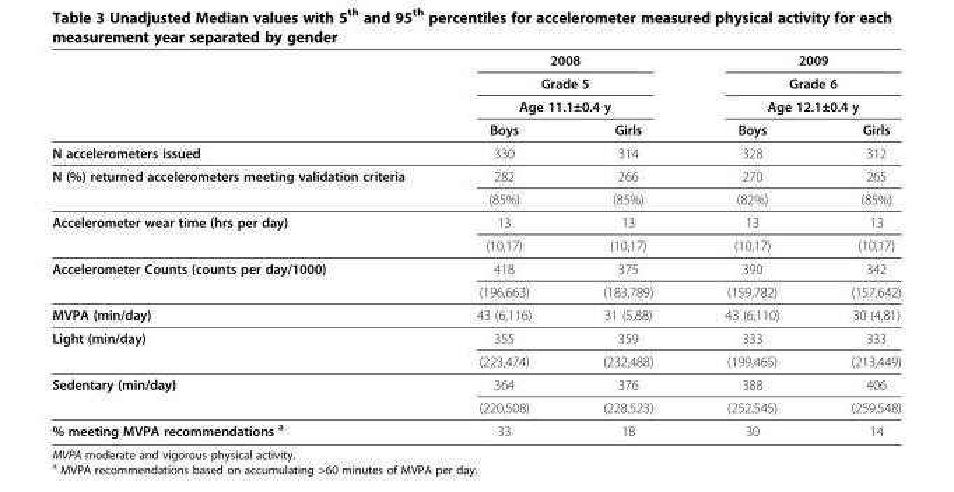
<table><thead><tr><td rowspan="4"></td><td rowspan="3" colspan="2">2008 Grade 5 Age 11.1±0.4 y</td><td rowspan="3" colspan="2">2009 Grade 6 Age 12.1±0.4 y</td></tr><tr></tr><tr></tr><tr><td>Boys</td><td>Girls</td><td>Boys</td><td>Girls</td></tr></thead><tbody><tr><td>N accelerometers issued</td><td>330</td><td>314</td><td>328</td><td>312</td></tr><tr><td rowspan="2">N (%) returned accelerometers meeting validation criteria</td><td>282</td><td>266</td><td>270</td><td>265</td></tr><tr><td>(85%)</td><td>(85%)</td><td>(82%)</td><td>(85%)</td></tr><tr><td rowspan="2">Accelerometer wear time (hrs per day)</td><td>13</td><td>13</td><td>13</td><td>13</td></tr><tr><td>(10,17)</td><td>(10,17)</td><td>(10,17)</td><td>(10,17)</td></tr><tr><td rowspan="2">Accelerometer Counts (counts per day/1000)</td><td>418</td><td>375</td><td>390</td><td>342</td></tr><tr><td>(196,663)</td><td>(183,789)</td><td>(159,782)</td><td>(157,642)</td></tr><tr><td>MVPA (min/day)</td><td>43 (6,116)</td><td>31 (5,88)</td><td>43 (6,110)</td><td>30 (4,81)</td></tr><tr><td rowspan="2">Light (min/day)</td><td>355</td><td>359</td><td>333</td><td>333</td></tr><tr><td>(223,474)</td><td>(232,488)</td><td>(199,465)</td><td>(213,449)</td></tr><tr><td rowspan="2">Sedentary (min/day)</td><td>364</td><td>376</td><td>388</td><td>406</td></tr><tr><td>(220,508)</td><td>(228,523)</td><td>(252,545)</td><td>(259,548)</td></tr><tr><td>% meeting MVPA recommendations <sup>a</sup></td><td>33</td><td>18</td><td>30</td><td>14</td></tr></tbody></table>